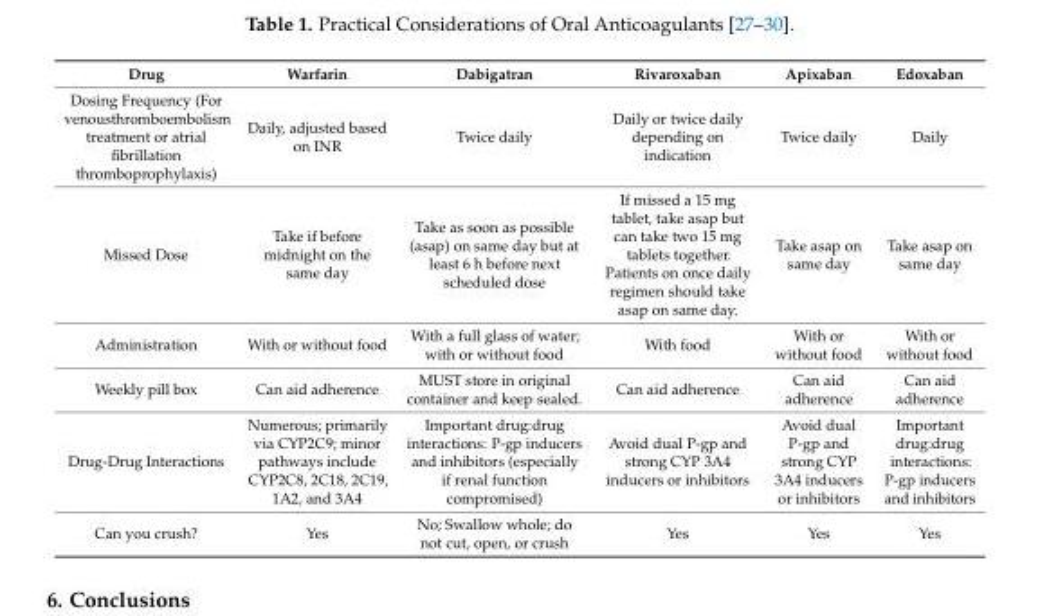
<table><thead><tr><td>Drug</td><td>Warfarin</td><td>Dabigatran</td><td>Rivaroxaban</td><td>Apixaban</td><td>Edoxaban</td></tr></thead><tbody><tr><td>Dosing Frequency (For venousthromboembolism treatment or atrial fibrillation thromboprophylaxis)</td><td>Daily, adjusted based on INR</td><td>Twice daily</td><td>Daily or twice daily depending on indication</td><td>Twice daily</td><td>Daily</td></tr><tr><td>Missed Dose</td><td>Take if before midnight on the same day</td><td>Take as soon as possible (asap) on same day but at least 6 h before next scheduled dose</td><td>If missed a 15 mg tablet, take asap but can take two 15 mg tablets together. Patients on once daily regimen should take asap on same day.</td><td>Take asap on same day</td><td>Take asap on same day</td></tr><tr><td>Administration</td><td>With or without food</td><td>With a full glass of water; with or without food</td><td>With food</td><td>With or without food</td><td>With or without food</td></tr><tr><td>Weekly pill box</td><td>Can aid adherence</td><td>MUST store in original container and keep sealed.</td><td>Can aid adherence</td><td>Can aid adherence</td><td>Can aid adherence</td></tr><tr><td>Drug-Drug Interactions</td><td>Numerous; primarily via CYP2C9; minor pathways include CYP2C8, 2C18, 2C19, 1A2, and 3A4</td><td>Important drug:drug interactions: P-gp inducers and inhibitors (especially if renal function compromised)</td><td>Avoid dual P-gp and strong CYP 3A4 inducers or inhibitors</td><td>Avoid dual P-gp and strong CYP 3A4 inducers or inhibitors</td><td>Important drug:drug interactions: P-gp inducers and inhibitors</td></tr><tr><td>Can you crush?</td><td>Yes</td><td>No; Swallow whole; do not cut, open, or crush</td><td>Yes</td><td>Yes</td><td>Yes</td></tr></tbody></table>